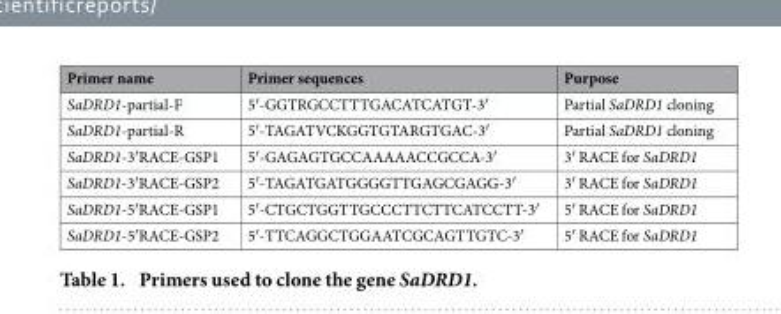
<table><thead><tr><td>Primer name</td><td>Primer sequences</td><td>Purpose</td></tr></thead><tbody><tr><td>SaDRD1-partial-F</td><td>5′ -GGTRGCCTTTGACATCATGT-3′</td><td>Partial SaDRD1 cloning</td></tr><tr><td>SaDRD1-partial-R</td><td>5′ -TAGATVCKGGTGTARGTGAC-3′</td><td>Partial SaDRD1 cloning</td></tr><tr><td>SaDRD1-3′ RACE-GSP1</td><td>5′ -GAGAGTGCCAAAAACCGCCA-3′</td><td>3′ RACE for SaDRD1</td></tr><tr><td>SaDRD1-3′ RACE-GSP2</td><td>5′ -TAGATGATGGGGTTGAGCGAGG-3′</td><td>3′ RACE for SaDRD1</td></tr><tr><td>SaDRD1-5′ RACE-GSP1</td><td>5′ -CTGCTGGTTGCCCTTCTTCATCCTT-3′</td><td>5′ RACE for SaDRD1</td></tr><tr><td>SaDRD1-5′ RACE-GSP2</td><td>5′ -TTCAGGCTGGAATCGCAGTTGTC-3′</td><td>5′ RACE for SaDRD1</td></tr></tbody></table>